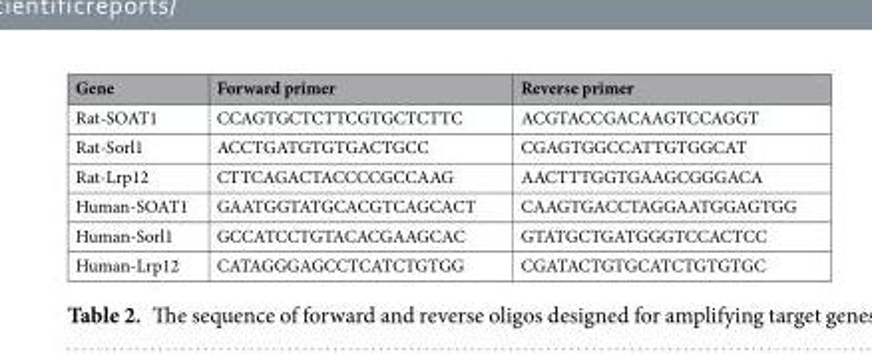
<table><thead><tr><td>Gene</td><td>Forward primer</td><td>Reverse primer</td></tr></thead><tbody><tr><td>Rat-SOAT1</td><td>CCAGTGCTCTTCGTGCTCTTC</td><td>ACGTACCGACAAGTCCAGGT</td></tr><tr><td>Rat-Sorl1</td><td>ACCTGATGTGTGACTGCC</td><td>CGAGTGGCCATTGTGGCAT</td></tr><tr><td>Rat-Lrp12</td><td>CTTCAGACTACCCCGCCAAG</td><td>AACTTTGGTGAAGCGGGACA</td></tr><tr><td>Human-SOAT1</td><td>GAATGGTATGCACGTCAGCACT</td><td>CAAGTGACCTAGGAATGGAGTGG</td></tr><tr><td>Human-Sorl1</td><td>GCCATCCTGTACACGAAGCAC</td><td>GTATGCTGATGGGTCCACTCC</td></tr><tr><td>Human-Lrp12</td><td>CATAGGGAGCCTCATCTGTGG</td><td>CGATACTGTGCATCTGTGTGC</td></tr></tbody></table>